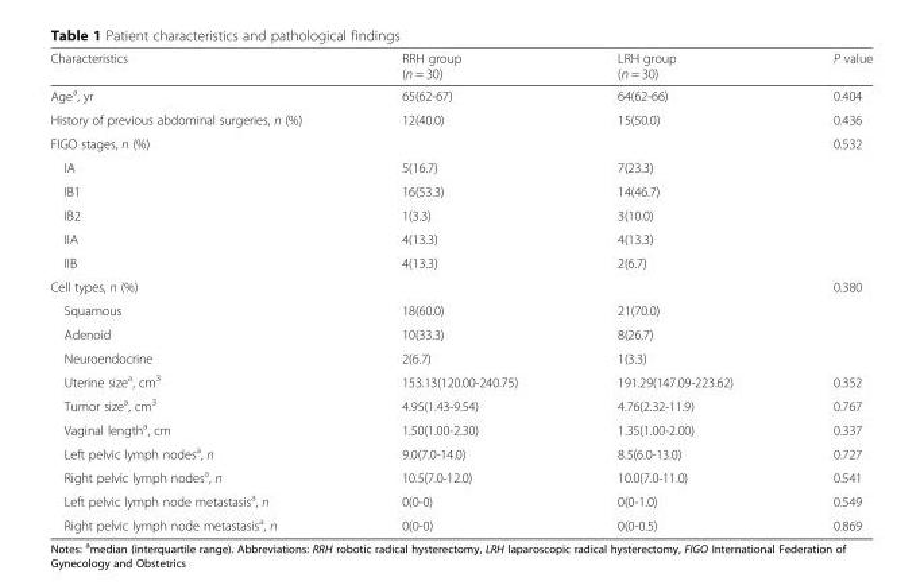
<table><thead><tr><td>Characteristics</td><td>RRH group (n = 30)</td><td>LRH group (n = 30)</td><td>P value</td></tr></thead><tbody><tr><td>Age<sup>a</sup>, yr</td><td>65(62-67)</td><td>64(62-66)</td><td>0.404</td></tr><tr><td>History of previous abdominal surgeries, n (%)</td><td>12(40.0)</td><td>15(50.0)</td><td>0.436</td></tr><tr><td colspan="3">FIGO stages, n (%)</td><td>0.532</td></tr><tr><td>IA</td><td>5(16.7)</td><td>7(23.3)</td><td></td></tr><tr><td>IB1</td><td>16(53.3)</td><td>14(46.7)</td><td></td></tr><tr><td>IB2</td><td>1(3.3)</td><td>3(10.0)</td><td></td></tr><tr><td>IIA</td><td>4(13.3)</td><td>4(13.3)</td><td></td></tr><tr><td>IIB</td><td>4(13.3)</td><td>2(6.7)</td><td></td></tr><tr><td colspan="3">Cell types, n (%)</td><td>0.380</td></tr><tr><td>Squamous</td><td>18(60.0)</td><td>21(70.0)</td><td></td></tr><tr><td>Adenoid</td><td>10(33.3)</td><td>8(26.7)</td><td></td></tr><tr><td>Neuroendocrine</td><td>2(6.7)</td><td>1(3.3)</td><td></td></tr><tr><td>Uterine size<sup>a</sup>, cm<sup>3</sup></td><td>153.13(120.00-240.75)</td><td>191.29(147.09-223.62)</td><td>0.352</td></tr><tr><td>Tumor size<sup>a</sup>, cm<sup>3</sup></td><td>4.95(1.43-9.54)</td><td>4.76(2.32-11.9)</td><td>0.767</td></tr><tr><td>Vaginal length<sup>a</sup>, cm</td><td>1.50(1.00-2.30)</td><td>1.35(1.00-2.00)</td><td>0.337</td></tr><tr><td>Left pelvic lymph nodes<sup>a</sup>, n</td><td>9.0(7.0-14.0)</td><td>8.5(6.0-13.0)</td><td>0.727</td></tr><tr><td>Right pelvic lymph nodes<sup>a</sup>, n</td><td>10.5(7.0-12.0)</td><td>10.0(7.0-11.0)</td><td>0.541</td></tr><tr><td>Left pelvic lymph node metastasis<sup>a</sup>, n</td><td>0(0-0)</td><td>0(0-1.0)</td><td>0.549</td></tr><tr><td>Right pelvic lymph node metastasis<sup>a</sup>, n</td><td>0(0-0)</td><td>0(0-0.5)</td><td>0.869</td></tr></tbody></table>